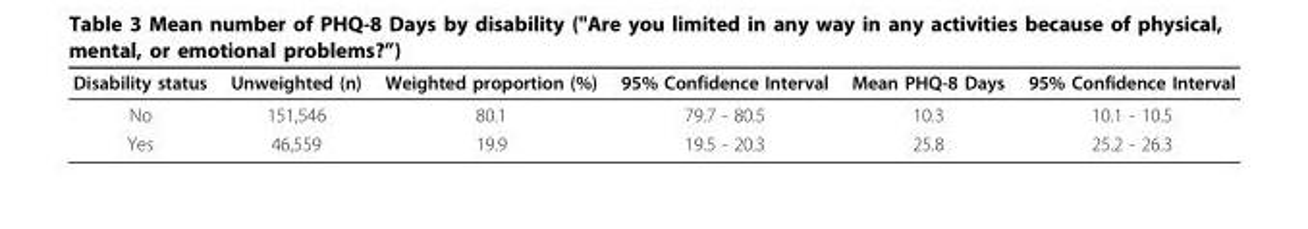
<table><thead><tr><td>Disability status</td><td>Unweighted (n)</td><td>Weighted proportion (%)</td><td>95% Confidence Interval</td><td>Mean PHQ-8 Days</td><td>95% Confidence Interval</td></tr></thead><tbody><tr><td>No</td><td>151,546</td><td>80.1</td><td>79.7 - 80.5</td><td>10.3</td><td>10.1 - 10.5</td></tr><tr><td>Yes</td><td>46,559</td><td>19.9</td><td>19.5 - 20.3</td><td>25.8</td><td>25.2 - 26.3</td></tr></tbody></table>